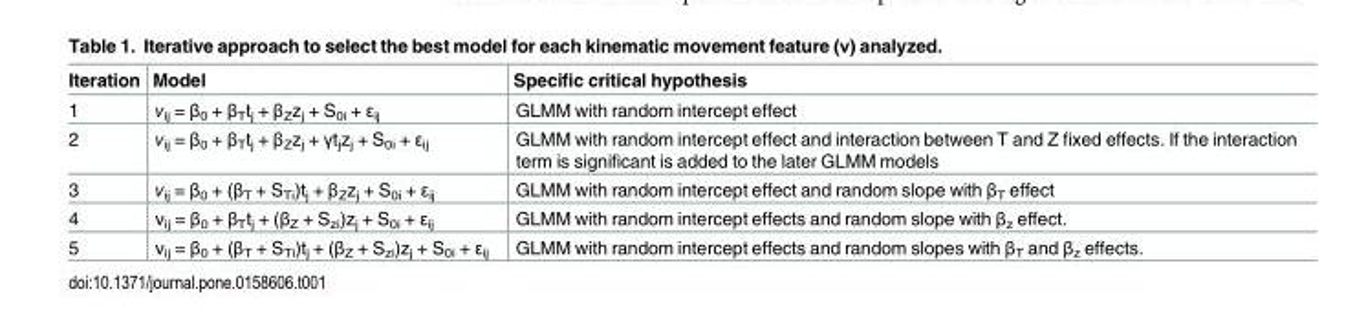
<table><thead><tr><td>Iteration</td><td>Model</td><td>Specific critical hypothesis</td></tr></thead><tbody><tr><td>1</td><td>v<sub>ij</sub> = β<sub>0</sub> + β<sub>T</sub>t<sub>j</sub> + β<sub>Z</sub>z<sub>j</sub> + S<sub>0i</sub> + ε<sub>ij</sub></td><td>GLMM with random intercept effect</td></tr><tr><td>2</td><td>v<sub>ij</sub> = β<sub>0</sub> + β<sub>T</sub>t<sub>j</sub> + β<sub>Z</sub>z<sub>j</sub> + γt<sub>j</sub>z<sub>j</sub> + S<sub>0i</sub> + ε<sub>ij</sub></td><td>GLMM with random intercept effect and interaction between T and Z fixed effects. If the interaction term is significant is added to the later GLMM models</td></tr><tr><td>3</td><td>v<sub>ij</sub> = β<sub>0</sub> + (β<sub>T</sub> + S<sub>Ti</sub>)t<sub>j</sub> + β<sub>Z</sub>z<sub>j</sub> + S<sub>0i</sub> + ε<sub>ij</sub></td><td>GLMM with random intercept effect and random slope with β<sub>T</sub> effect</td></tr><tr><td>4</td><td>v<sub>ij</sub> = β<sub>0</sub> + β<sub>T</sub>t<sub>j</sub> + (β<sub>Z</sub> + S<sub>zi</sub>)z<sub>j</sub> + S<sub>0i</sub> + ε<sub>ij</sub></td><td>GLMM with random intercept effects and random slope with β<sub>z</sub> effect.</td></tr><tr><td>5</td><td>v<sub>ij</sub> = β<sub>0</sub> + (β<sub>T</sub> + S<sub>Ti</sub>)t<sub>j</sub> + (β<sub>Z</sub> + S<sub>zi</sub>)z<sub>j</sub> + S<sub>0i</sub> + ε<sub>ij</sub></td><td>GLMM with random intercept effects and random slopes with β<sub>T</sub> and β<sub>z</sub> effects.</td></tr></tbody></table>